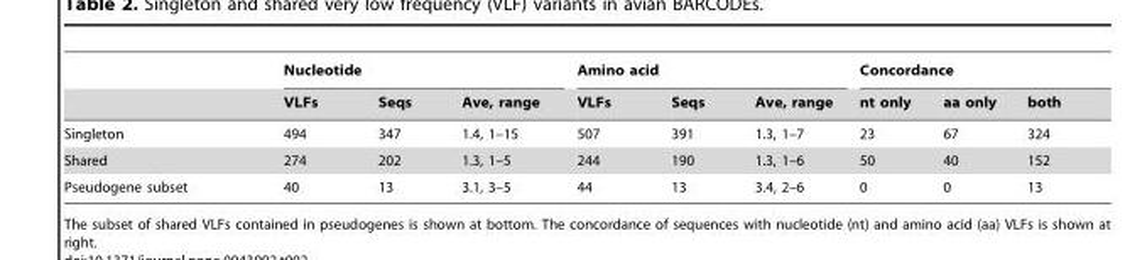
<table><thead><tr><td rowspan="2"></td><td colspan="3">Nucleotide</td><td colspan="3">Amino acid</td><td colspan="3">Concordance</td></tr><tr><td>VLFs</td><td>Seqs</td><td>Ave, range</td><td>VLFs</td><td>Seqs</td><td>Ave, range</td><td>nt only</td><td>aa only</td><td>both</td></tr></thead><tbody><tr><td>Singleton</td><td>494</td><td>347</td><td>1.4, 1–15</td><td>507</td><td>391</td><td>1.3, 1–7</td><td>23</td><td>67</td><td>324</td></tr><tr><td>Shared</td><td>274</td><td>202</td><td>1.3, 1–5</td><td>244</td><td>190</td><td>1.3, 1–6</td><td>50</td><td>40</td><td>152</td></tr><tr><td>Pseudogene subset</td><td>40</td><td>13</td><td>3.1, 3–5</td><td>44</td><td>13</td><td>3.4, 2–6</td><td>0</td><td>0</td><td>13</td></tr></tbody></table>